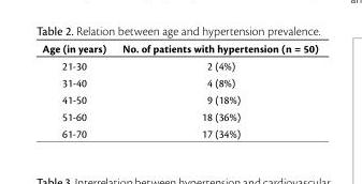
<table><thead><tr><td>Age (in years)</td><td>No. of patients with hypertension (n = 50)</td></tr></thead><tbody><tr><td>21-30</td><td>2 (4%)</td></tr><tr><td>31-40</td><td>4 (8%)</td></tr><tr><td>41-50</td><td>9 (18%)</td></tr><tr><td>51-60</td><td>18 (36%)</td></tr><tr><td>61-70</td><td>17 (34%)</td></tr></tbody></table>